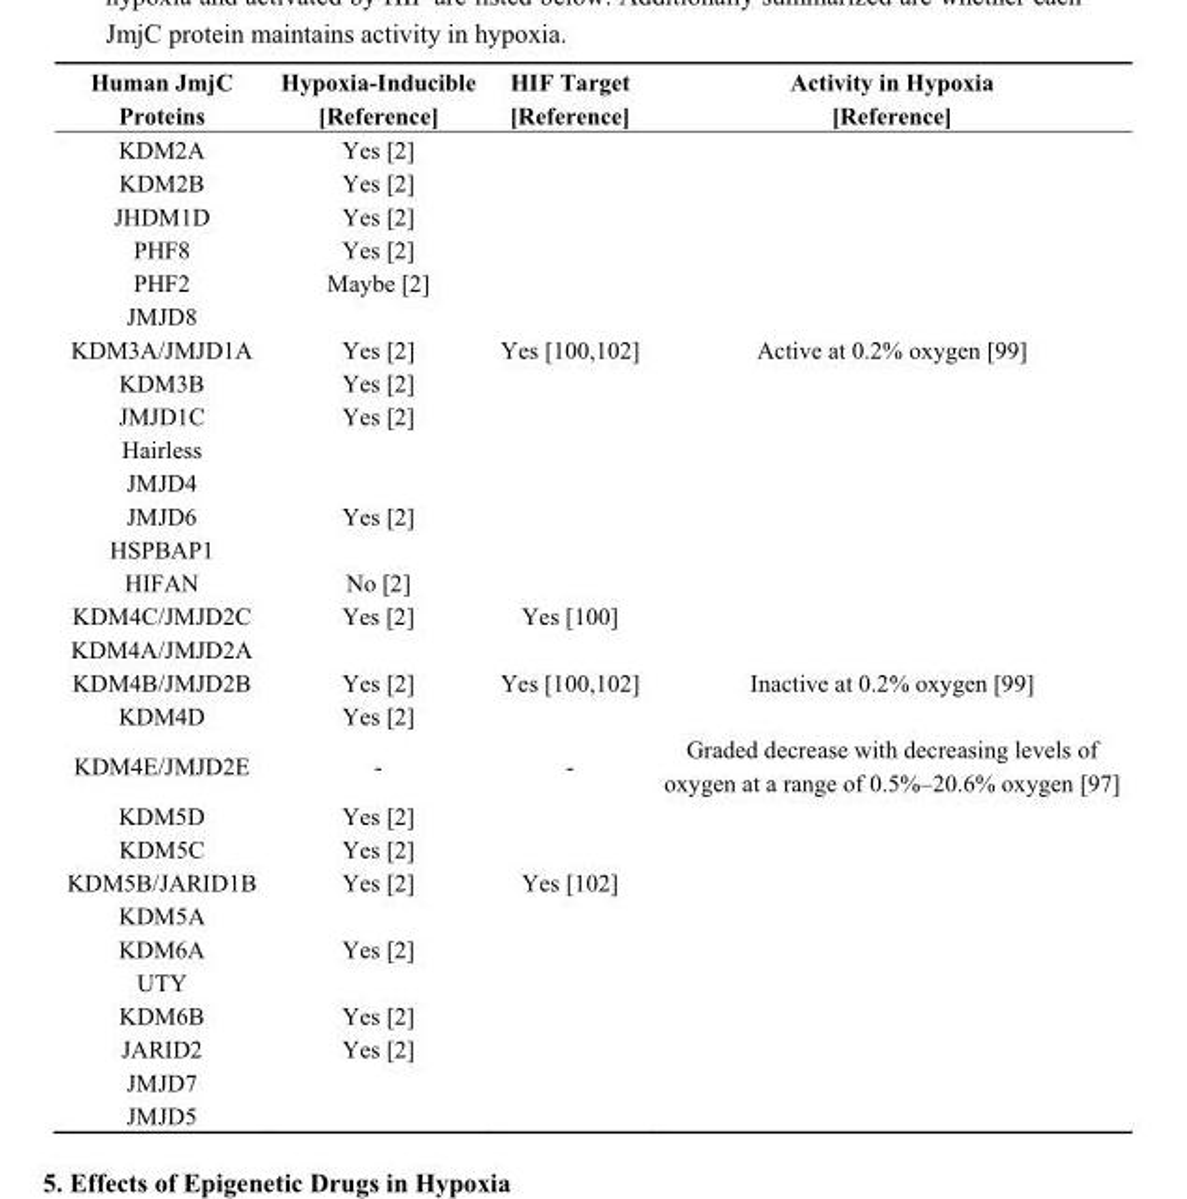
<table><thead><tr><td>Human JmjC Proteins</td><td>Hypoxia-Inducible [Reference]</td><td>HIF Target [Reference]</td><td>Activity in Hypoxia [Reference]</td></tr></thead><tbody><tr><td>KDM2A</td><td>Yes [2]</td><td></td><td></td></tr><tr><td>KDM2B</td><td>Yes [2]</td><td></td><td></td></tr><tr><td>JHDM1D</td><td>Yes [2]</td><td></td><td></td></tr><tr><td>PHF8</td><td>Yes [2]</td><td></td><td></td></tr><tr><td>PHF2</td><td>Maybe [2]</td><td></td><td></td></tr><tr><td colspan="4">JMJD8</td></tr><tr><td>KDM3A/JMJD1A</td><td>Yes [2]</td><td>Yes [100,102]</td><td>Active at 0.2% oxygen [99]</td></tr><tr><td>KDM3B</td><td>Yes [2]</td><td></td><td></td></tr><tr><td>JMJD1C</td><td>Yes [2]</td><td></td><td></td></tr><tr><td colspan="4">Hairless</td></tr><tr><td colspan="4">JMJD4</td></tr><tr><td>JMJD6</td><td>Yes [2]</td><td></td><td></td></tr><tr><td colspan="4">HSPBAP1</td></tr><tr><td>HIFAN</td><td>No [2]</td><td></td><td></td></tr><tr><td>KDM4C/JMJD2C</td><td>Yes [2]</td><td>Yes [100]</td><td></td></tr><tr><td colspan="4">KDM4A/JMJD2A</td></tr><tr><td>KDM4B/JMJD2B</td><td>Yes [2]</td><td>Yes [100,102]</td><td>Inactive at 0.2% oxygen [99]</td></tr><tr><td>KDM4D</td><td>Yes [2]</td><td></td><td></td></tr><tr><td>KDM4E/JMJD2E</td><td>-</td><td>-</td><td>Graded decrease with decreasing levels of oxygen at a range of 0.5%–20.6% oxygen [97]</td></tr><tr><td>KDM5D</td><td>Yes [2]</td><td></td><td></td></tr><tr><td>KDM5C</td><td>Yes [2]</td><td></td><td></td></tr><tr><td>KDM5B/JARID1B</td><td>Yes [2]</td><td>Yes [102]</td><td></td></tr><tr><td colspan="4">KDM5A</td></tr><tr><td>KDM6A</td><td>Yes [2]</td><td></td><td></td></tr><tr><td colspan="4">UTY</td></tr><tr><td>KDM6B</td><td>Yes [2]</td><td></td><td></td></tr><tr><td>JARID2</td><td>Yes [2]</td><td></td><td></td></tr><tr><td colspan="4">JMJD7</td></tr><tr><td>JMJD5</td><td></td><td></td><td></td></tr></tbody></table>